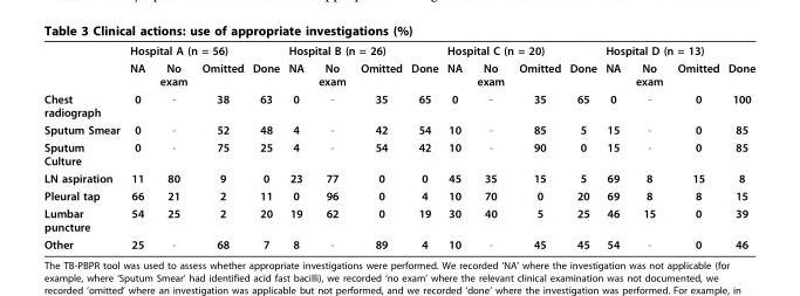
<table><thead><tr><td rowspan="2"></td><td colspan="4">Hospital A (n = 56)</td><td colspan="4">Hospital B (n = 26)</td><td colspan="4">Hospital C (n = 20)</td><td colspan="4">Hospital D (n = 13)</td></tr><tr><td>NA</td><td>No exam</td><td>Omitted</td><td>Done</td><td>NA</td><td>No exam</td><td>Omitted</td><td>Done</td><td>NA</td><td>No exam</td><td>Omitted</td><td>Done</td><td>NA</td><td>No exam</td><td>Omitted</td><td>Done</td></tr></thead><tbody><tr><td>Chest radiograph</td><td>0</td><td>-</td><td>38</td><td>63</td><td>0</td><td>-</td><td>35</td><td>65</td><td>0</td><td>-</td><td>35</td><td>65</td><td>0</td><td>-</td><td>0</td><td>100</td></tr><tr><td>Sputum Smear</td><td>0</td><td>-</td><td>52</td><td>48</td><td>4</td><td>-</td><td>42</td><td>54</td><td>10</td><td>-</td><td>85</td><td>5</td><td>15</td><td>-</td><td>0</td><td>85</td></tr><tr><td>Sputum Culture</td><td>0</td><td>-</td><td>75</td><td>25</td><td>4</td><td>-</td><td>54</td><td>42</td><td>10</td><td>-</td><td>90</td><td>0</td><td>15</td><td>-</td><td>0</td><td>85</td></tr><tr><td>LN aspiration</td><td>11</td><td>80</td><td>9</td><td>0</td><td>23</td><td>77</td><td>0</td><td>0</td><td>45</td><td>35</td><td>15</td><td>5</td><td>69</td><td>8</td><td>15</td><td>8</td></tr><tr><td>Pleural tap</td><td>66</td><td>21</td><td>2</td><td>11</td><td>0</td><td>96</td><td>0</td><td>4</td><td>10</td><td>70</td><td>0</td><td>20</td><td>69</td><td>8</td><td>8</td><td>15</td></tr><tr><td>Lumbar puncture</td><td>54</td><td>25</td><td>2</td><td>20</td><td>19</td><td>62</td><td>0</td><td>19</td><td>30</td><td>40</td><td>5</td><td>25</td><td>46</td><td>15</td><td>0</td><td>39</td></tr><tr><td>Other</td><td>25</td><td>-</td><td>68</td><td>7</td><td>8</td><td>-</td><td>89</td><td>4</td><td>10</td><td>-</td><td>45</td><td>45</td><td>54</td><td>-</td><td>0</td><td>46</td></tr></tbody></table>